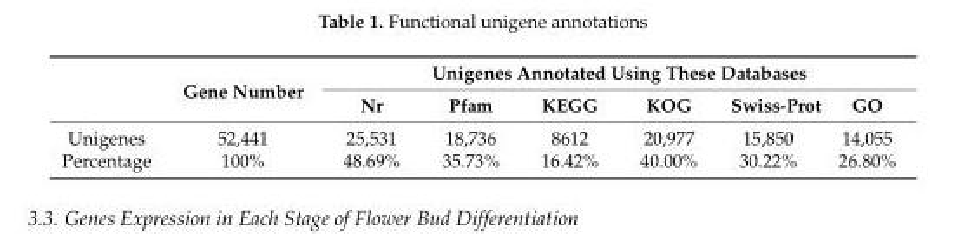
<table><thead><tr><td rowspan="2"></td><td rowspan="2">Gene Number</td><td colspan="6">Unigenes Annotated Using These Databases</td></tr><tr><td>Nr</td><td>Pfam</td><td>KEGG</td><td>KOG</td><td>Swiss-Prot</td><td>GO</td></tr></thead><tbody><tr><td>Unigenes</td><td>52,441</td><td>25,531</td><td>18,736</td><td>8612</td><td>20,977</td><td>15,850</td><td>14,055</td></tr><tr><td>Percentage</td><td>100%</td><td>48.69%</td><td>35.73%</td><td>16.42%</td><td>40.00%</td><td>30.22%</td><td>26.80%</td></tr></tbody></table>